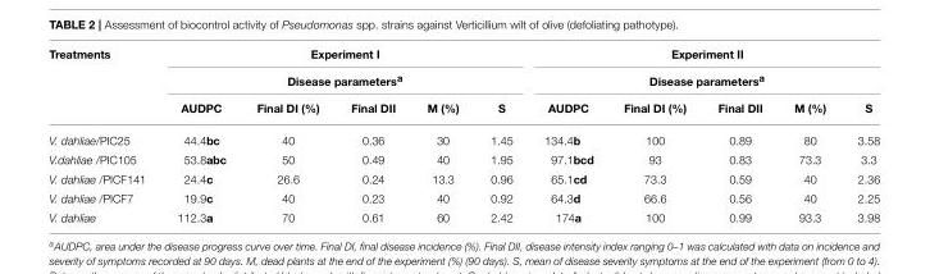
<table><thead><tr><td rowspan="3">Treatments</td><td rowspan="2" colspan="5">Experiment I Disease parameters<sup>a</sup></td><td rowspan="2" colspan="5">Experiment II Disease parameters<sup>a</sup></td></tr><tr></tr><tr><td>AUDPC</td><td>Final DI (%)</td><td>Final DII</td><td>M (%)</td><td>S</td><td>AUDPC</td><td>Final DI (%)</td><td>Final DII</td><td>M (%)</td><td>S</td></tr></thead><tbody><tr><td>V. dahliae/PIC25</td><td>44.4bc</td><td>40</td><td>0.36</td><td>30</td><td>1.45</td><td>134.4b</td><td>100</td><td>0.89</td><td>80</td><td>3.58</td></tr><tr><td>V.dahliae /PIC105</td><td>53.8abc</td><td>50</td><td>0.49</td><td>40</td><td>1.95</td><td>97.1bcd</td><td>93</td><td>0.83</td><td>73.3</td><td>3.3</td></tr><tr><td>V. dahliae /PICF141</td><td>24.4c</td><td>26.6</td><td>0.24</td><td>13.3</td><td>0.96</td><td>65.1cd</td><td>73.3</td><td>0.59</td><td>40</td><td>2.36</td></tr><tr><td>V. dahliae /PICF7</td><td>19.9c</td><td>40</td><td>0.23</td><td>40</td><td>0.92</td><td>64.3d</td><td>66.6</td><td>0.56</td><td>40</td><td>2.25</td></tr><tr><td>V. dahliae</td><td>112.3a</td><td>70</td><td>0.61</td><td>60</td><td>2.42</td><td>174a</td><td>100</td><td>0.99</td><td>93.3</td><td>3.98</td></tr></tbody></table>